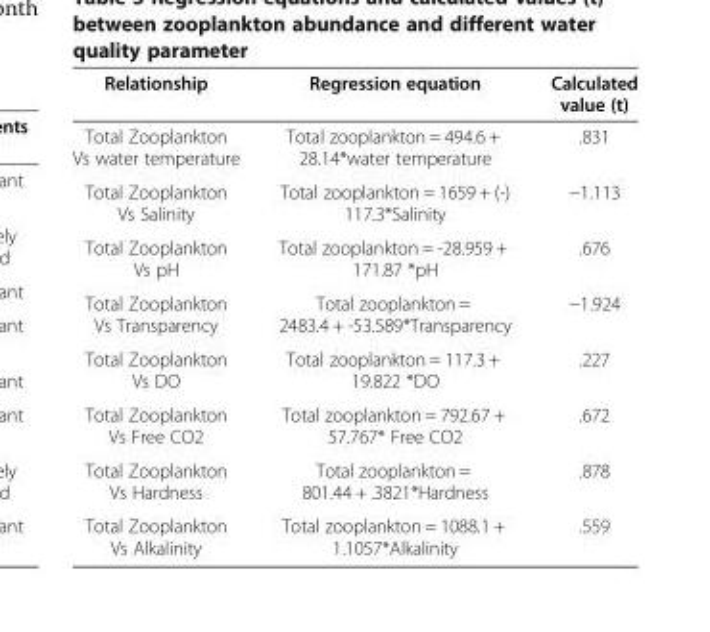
<table><thead><tr><td>Relationship</td><td>Regression equation</td><td>Calculated value (t)</td></tr></thead><tbody><tr><td>Total Zooplankton Vs water temperature</td><td>Total zooplankton = 494.6 + 28.14*water temperature</td><td>.831</td></tr><tr><td>Total Zooplankton Vs Salinity</td><td>Total zooplankton = 1659 + (-) 117.3*Salinity</td><td>−1.113</td></tr><tr><td>Total Zooplankton Vs pH</td><td>Total zooplankton = -28.959 + 171.87 *pH</td><td>.676</td></tr><tr><td>Total Zooplankton Vs Transparency</td><td>Total zooplankton = 2483.4 + -53.589*Transparency</td><td>−1.924</td></tr><tr><td>Total Zooplankton Vs DO</td><td>Total zooplankton = 117.3 + 19.822 *DO</td><td>.227</td></tr><tr><td>Total Zooplankton Vs Free CO2</td><td>Total zooplankton = 792.67 + 57.767* Free CO2</td><td>.672</td></tr><tr><td>Total Zooplankton Vs Hardness</td><td>Total zooplankton = 801.44 + .3821*Hardness</td><td>.878</td></tr><tr><td>Total Zooplankton Vs Alkalinity</td><td>Total zooplankton = 1088.1 + 1.1057*Alkalinity</td><td>.559</td></tr></tbody></table>